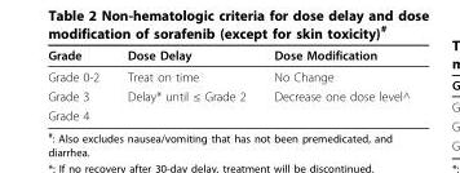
<table><thead><tr><td>Grade</td><td>Dose Delay</td><td>Dose Modification</td></tr></thead><tbody><tr><td>Grade 0-2</td><td>Treat on time</td><td>No Change</td></tr><tr><td>Grade 3</td><td>Delay* until ≤ Grade 2</td><td>Decrease one dose level^</td></tr><tr><td>Grade 4</td><td></td><td></td></tr></tbody></table>